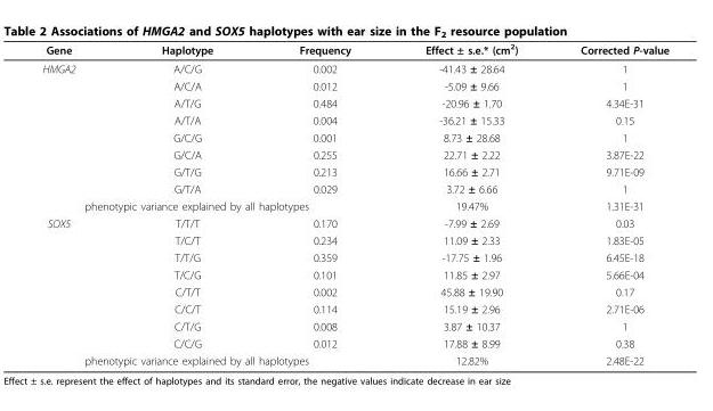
<table><thead><tr><td>Gene</td><td>Haplotype</td><td>Frequency</td><td>Effect ± s.e.* (cm<sup>2</sup>)</td><td>Corrected P-value</td></tr></thead><tbody><tr><td rowspan="8">HMGA2</td><td>A/C/G</td><td>0.002</td><td>-41.43 ± 28.64</td><td>1</td></tr><tr><td>A/C/A</td><td>0.012</td><td>-5.09 ± 9.66</td><td>1</td></tr><tr><td>A/T/G</td><td>0.484</td><td>-20.96 ± 1.70</td><td>4.34E-31</td></tr><tr><td>A/T/A</td><td>0.004</td><td>-36.21 ± 15.33</td><td>0.15</td></tr><tr><td>G/C/G</td><td>0.001</td><td>8.73 ± 28.68</td><td>1</td></tr><tr><td>G/C/A</td><td>0.255</td><td>22.71 ± 2.22</td><td>3.87E-22</td></tr><tr><td>G/T/G</td><td>0.213</td><td>16.66 ± 2.71</td><td>9.71E-09</td></tr><tr><td>G/T/A</td><td>0.029</td><td>3.72 ± 6.66</td><td>1</td></tr><tr><td colspan="3">phenotypic variance explained by all haplotypes</td><td>19.47%</td><td>1.31E-31</td></tr><tr><td rowspan="8">SOX5</td><td>T/T/T</td><td>0.170</td><td>-7.99 ± 2.69</td><td>0.03</td></tr><tr><td>T/C/T</td><td>0.234</td><td>11.09 ± 2.33</td><td>1.83E-05</td></tr><tr><td>T/T/G</td><td>0.359</td><td>-17.75 ± 1.96</td><td>6.45E-18</td></tr><tr><td>T/C/G</td><td>0.101</td><td>11.85 ± 2.97</td><td>5.66E-04</td></tr><tr><td>C/T/T</td><td>0.002</td><td>45.88 ± 19.90</td><td>0.17</td></tr><tr><td>C/C/T</td><td>0.114</td><td>15.19 ± 2.96</td><td>2.71E-06</td></tr><tr><td>C/T/G</td><td>0.008</td><td>3.87 ± 10.37</td><td>1</td></tr><tr><td>C/C/G</td><td>0.012</td><td>17.88 ± 8.99</td><td>0.38</td></tr><tr><td colspan="3">phenotypic variance explained by all haplotypes</td><td>12.82%</td><td>2.48E-22</td></tr></tbody></table>